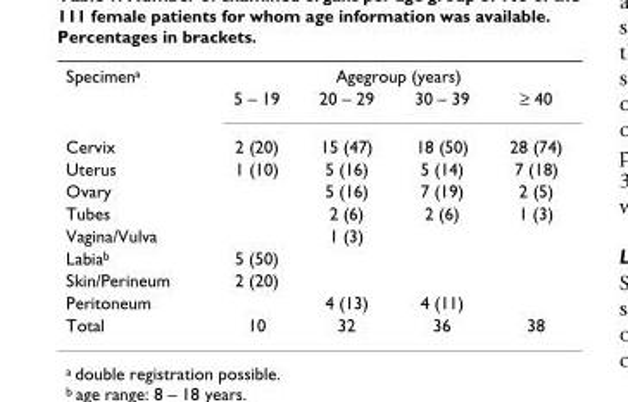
<table><tbody><tr><td rowspan="2">Specimen<sup>a</sup></td><td colspan="4">Agegroup (years)</td></tr><tr><td>5 – 19</td><td>20 – 29</td><td>30 – 39</td><td>≥ 40</td></tr><tr><td>Cervix</td><td>2 (20)</td><td>15 (47)</td><td>18 (50)</td><td>28 (74)</td></tr><tr><td>Uterus</td><td>1 (10)</td><td>5 (16)</td><td>5 (14)</td><td>7 (18)</td></tr><tr><td>Ovary</td><td></td><td>5 (16)</td><td>7 (19)</td><td>2 (5)</td></tr><tr><td>Tubes</td><td></td><td>2 (6)</td><td>2 (6)</td><td>1 (3)</td></tr><tr><td>Vagina/Vulva</td><td></td><td>1 (3)</td><td></td><td></td></tr><tr><td>Labia<sup>b</sup></td><td>5 (50)</td><td></td><td></td><td></td></tr><tr><td>Skin/Perineum</td><td>2 (20)</td><td></td><td></td><td></td></tr><tr><td>Peritoneum</td><td></td><td>4 (13)</td><td>4 (11)</td><td></td></tr><tr><td>Total</td><td>10</td><td>32</td><td>36</td><td>38</td></tr></tbody></table>